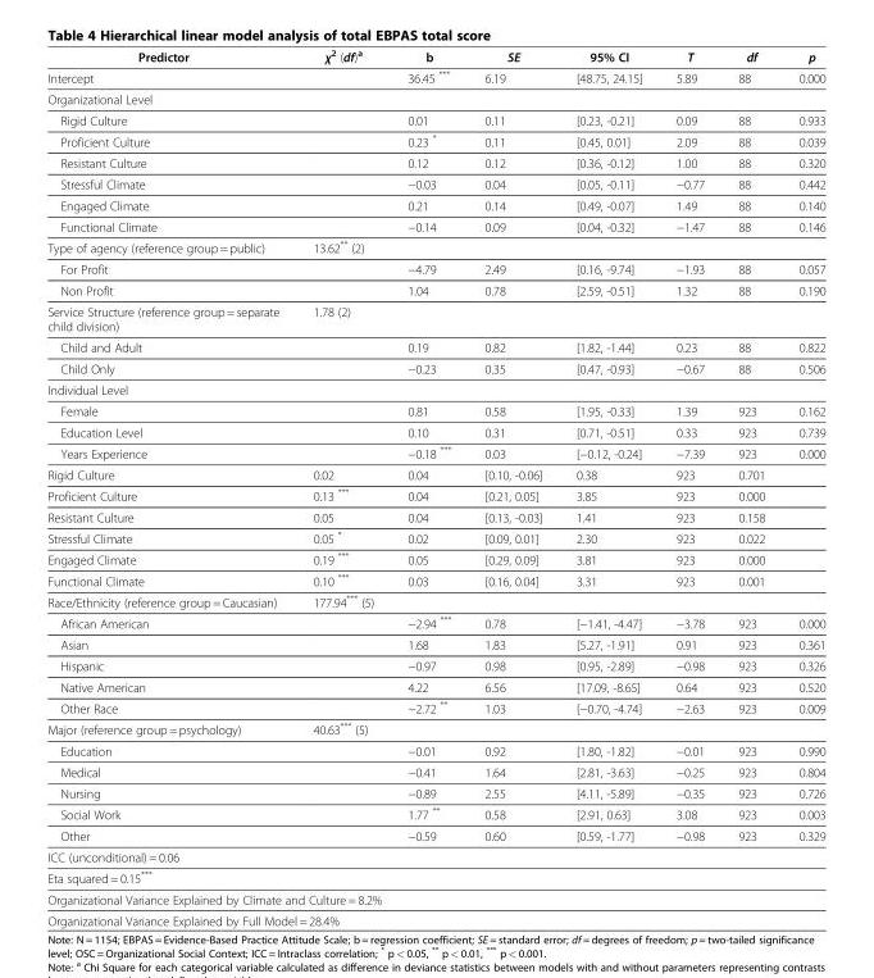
<table><thead><tr><td>Predictor</td><td>χ<sup>2</sup> (df)<sup>a</sup></td><td>b</td><td>SE</td><td>95% CI</td><td>T</td><td>df</td><td>p</td></tr></thead><tbody><tr><td>Intercept</td><td></td><td>36.45 ***</td><td>6.19</td><td>[48.75, 24.15]</td><td>5.89</td><td>88</td><td>0.000</td></tr><tr><td colspan="8">Organizational Level</td></tr><tr><td>Rigid Culture</td><td></td><td>0.01</td><td>0.11</td><td>[0.23, -0.21]</td><td>0.09</td><td>88</td><td>0.933</td></tr><tr><td>Proficient Culture</td><td></td><td>0.23 *</td><td>0.11</td><td>[0.45, 0.01]</td><td>2.09</td><td>88</td><td>0.039</td></tr><tr><td>Resistant Culture</td><td></td><td>0.12</td><td>0.12</td><td>[0.36, -0.12]</td><td>1.00</td><td>88</td><td>0.320</td></tr><tr><td>Stressful Climate</td><td></td><td>−0.03</td><td>0.04</td><td>[0.05, -0.11]</td><td>−0.77</td><td>88</td><td>0.442</td></tr><tr><td>Engaged Climate</td><td></td><td>0.21</td><td>0.14</td><td>[0.49, -0.07]</td><td>1.49</td><td>88</td><td>0.140</td></tr><tr><td>Functional Climate</td><td></td><td>−0.14</td><td>0.09</td><td>[0.04, -0.32]</td><td>−1.47</td><td>88</td><td>0.146</td></tr><tr><td>Type of agency (reference group = public)</td><td>13.62** (2)</td><td></td><td></td><td></td><td></td><td></td><td></td></tr><tr><td>For Profit</td><td></td><td>−4.79</td><td>2.49</td><td>[0.16, -9.74]</td><td>−1.93</td><td>88</td><td>0.057</td></tr><tr><td>Non Profit</td><td></td><td>1.04</td><td>0.78</td><td>[2.59, -0.51]</td><td>1.32</td><td>88</td><td>0.190</td></tr><tr><td>Service Structure (reference group = separate child division)</td><td>1.78 (2)</td><td></td><td></td><td></td><td></td><td></td><td></td></tr><tr><td>Child and Adult</td><td></td><td>0.19</td><td>0.82</td><td>[1.82, -1.44]</td><td>0.23</td><td>88</td><td>0.822</td></tr><tr><td>Child Only</td><td></td><td>−0.23</td><td>0.35</td><td>[0.47, -0.93]</td><td>−0.67</td><td>88</td><td>0.506</td></tr><tr><td colspan="8">Individual Level</td></tr><tr><td>Female</td><td></td><td>0.81</td><td>0.58</td><td>[1.95, -0.33]</td><td>1.39</td><td>923</td><td>0.162</td></tr><tr><td>Education Level</td><td></td><td>0.10</td><td>0.31</td><td>[0.71, -0.51]</td><td>0.33</td><td>923</td><td>0.739</td></tr><tr><td>Years Experience</td><td></td><td>−0.18 ***</td><td>0.03</td><td>[−0.12, -0.24]</td><td>−7.39</td><td>923</td><td>0.000</td></tr><tr><td>Rigid Culture</td><td>0.02</td><td>0.04</td><td>[0.10, -0.06]</td><td>0.38</td><td>923</td><td>0.701</td><td></td></tr><tr><td>Proficient Culture</td><td>0.13 ***</td><td>0.04</td><td>[0.21, 0.05]</td><td>3.85</td><td>923</td><td>0.000</td><td></td></tr><tr><td>Resistant Culture</td><td>0.05</td><td>0.04</td><td>[0.13, -0.03]</td><td>1.41</td><td>923</td><td>0.158</td><td></td></tr><tr><td>Stressful Climate</td><td>0.05 *</td><td>0.02</td><td>[0.09, 0.01]</td><td>2.30</td><td>923</td><td>0.022</td><td></td></tr><tr><td>Engaged Climate</td><td>0.19 ***</td><td>0.05</td><td>[0.29, 0.09]</td><td>3.81</td><td>923</td><td>0.000</td><td></td></tr><tr><td>Functional Climate</td><td>0.10 ***</td><td>0.03</td><td>[0.16, 0.04]</td><td>3.31</td><td>923</td><td>0.001</td><td></td></tr><tr><td>Race/Ethnicity (reference group = Caucasian)</td><td>177.94*** (5)</td><td></td><td></td><td></td><td></td><td></td><td></td></tr><tr><td>African American</td><td></td><td>−2.94 ***</td><td>0.78</td><td>[−1.41, -4.47]</td><td>−3.78</td><td>923</td><td>0.000</td></tr><tr><td>Asian</td><td></td><td>1.68</td><td>1.83</td><td>[5.27, -1.91]</td><td>0.91</td><td>923</td><td>0.361</td></tr><tr><td>Hispanic</td><td></td><td>−0.97</td><td>0.98</td><td>[0.95, -2.89]</td><td>−0.98</td><td>923</td><td>0.326</td></tr><tr><td>Native American</td><td></td><td>4.22</td><td>6.56</td><td>[17.09, -8.65]</td><td>0.64</td><td>923</td><td>0.520</td></tr><tr><td>Other Race</td><td></td><td>−2.72 **</td><td>1.03</td><td>[−0.70, -4.74]</td><td>−2.63</td><td>923</td><td>0.009</td></tr><tr><td>Major (reference group = psychology)</td><td>40.63*** (5)</td><td></td><td></td><td></td><td></td><td></td><td></td></tr><tr><td>Education</td><td></td><td>−0.01</td><td>0.92</td><td>[1.80, -1.82]</td><td>−0.01</td><td>923</td><td>0.990</td></tr><tr><td>Medical</td><td></td><td>−0.41</td><td>1.64</td><td>[2.81, -3.63]</td><td>−0.25</td><td>923</td><td>0.804</td></tr><tr><td>Nursing</td><td></td><td>−0.89</td><td>2.55</td><td>[4.11, -5.89]</td><td>−0.35</td><td>923</td><td>0.726</td></tr><tr><td>Social Work</td><td></td><td>1.77 **</td><td>0.58</td><td>[2.91, 0.63]</td><td>3.08</td><td>923</td><td>0.003</td></tr><tr><td>Other</td><td></td><td>−0.59</td><td>0.60</td><td>[0.59, -1.77]</td><td>−0.98</td><td>923</td><td>0.329</td></tr><tr><td colspan="8">ICC (unconditional) = 0.06</td></tr><tr><td colspan="8">Eta squared = 0.15***</td></tr><tr><td colspan="8">Organizational Variance Explained by Climate and Culture = 8.2%</td></tr><tr><td colspan="8">Organizational Variance Explained by Full Model = 28.4%</td></tr></tbody></table>